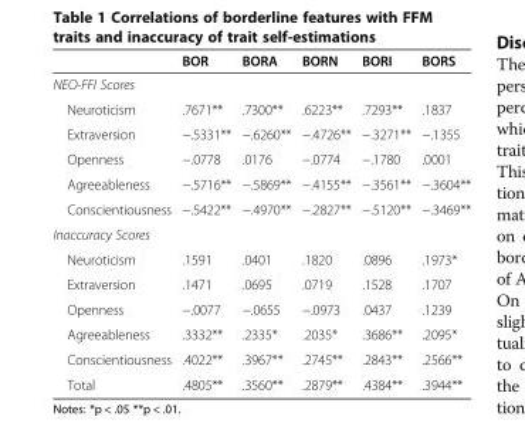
<table><thead><tr><td></td><td>BOR</td><td>BORA</td><td>BORN</td><td>BORI</td><td>BORS</td></tr></thead><tbody><tr><td colspan="6">NEO-FFI Scores</td></tr><tr><td>Neuroticism</td><td>.7671**</td><td>.7300**</td><td>.6223**</td><td>.7293**</td><td>.1837</td></tr><tr><td>Extraversion</td><td>−.5331**</td><td>−.6260**</td><td>−.4726**</td><td>−.3271**</td><td>−.1355</td></tr><tr><td>Openness</td><td>−.0778</td><td>.0176</td><td>−.0774</td><td>−.1780</td><td>.0001</td></tr><tr><td>Agreeableness</td><td>−.5716**</td><td>−.5869**</td><td>−.4155**</td><td>−.3561**</td><td>−.3604**</td></tr><tr><td>Conscientiousness</td><td>−.5422**</td><td>−.4970**</td><td>−.2827**</td><td>−.5120**</td><td>−.3469**</td></tr><tr><td colspan="6">Inaccuracy Scores</td></tr><tr><td>Neuroticism</td><td>.1591</td><td>.0401</td><td>.1820</td><td>.0896</td><td>.1973*</td></tr><tr><td>Extraversion</td><td>.1471</td><td>.0695</td><td>.0719</td><td>.1528</td><td>.1707</td></tr><tr><td>Openness</td><td>−.0077</td><td>−.0655</td><td>−.0973</td><td>.0437</td><td>.1239</td></tr><tr><td>Agreeableness</td><td>.3332**</td><td>.2335*</td><td>.2035*</td><td>.3686**</td><td>.2095*</td></tr><tr><td>Conscientiousness</td><td>.4022**</td><td>.3967**</td><td>.2745**</td><td>.2843**</td><td>.2566**</td></tr><tr><td>Total</td><td>.4805**</td><td>.3560**</td><td>.2879**</td><td>.4384**</td><td>.3944**</td></tr></tbody></table>